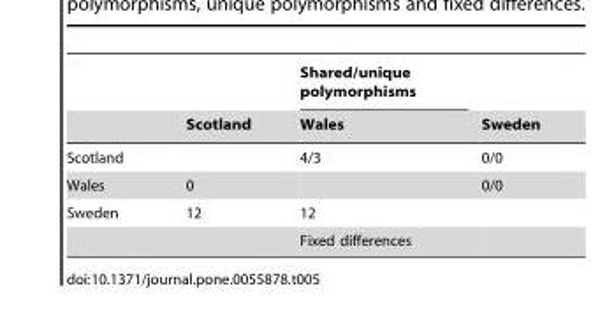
<table><thead><tr><td rowspan="2"></td><td rowspan="2">Scotland</td><td rowspan="2">Shared/unique polymorphisms Wales</td><td rowspan="2">Sweden</td></tr><tr></tr></thead><tbody><tr><td>Scotland</td><td></td><td>4/3</td><td>0/0</td></tr><tr><td>Wales</td><td>0</td><td></td><td>0/0</td></tr><tr><td rowspan="2">Sweden</td><td>12</td><td>12</td><td></td></tr><tr><td></td><td>Fixed differences</td><td></td></tr></tbody></table>